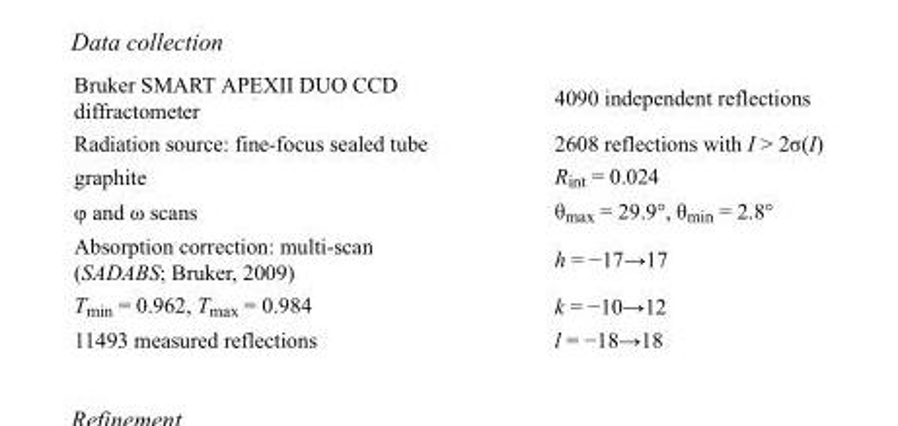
<table><tbody><tr><td>Bruker SMART APEXII DUO CCD diffractometer</td><td>4090 independent reflections</td></tr><tr><td>Radiation source: fine-focus sealed tube</td><td>2608 reflections with I &gt; 2σ(I)</td></tr><tr><td>graphite</td><td>R<sub>int</sub> = 0.024</td></tr><tr><td>φ and ω scans</td><td>θ<sub>max</sub> = 29.9°, θ<sub>min</sub> = 2.8°</td></tr><tr><td>Absorption correction: multi-scan (SADABS; Bruker, 2009)</td><td>h = −17→17</td></tr><tr><td>T<sub>min</sub> = 0.962, T<sub>max</sub> = 0.984</td><td>k = −10→12</td></tr><tr><td>11493 measured reflections</td><td>l = −18→18</td></tr></tbody></table>